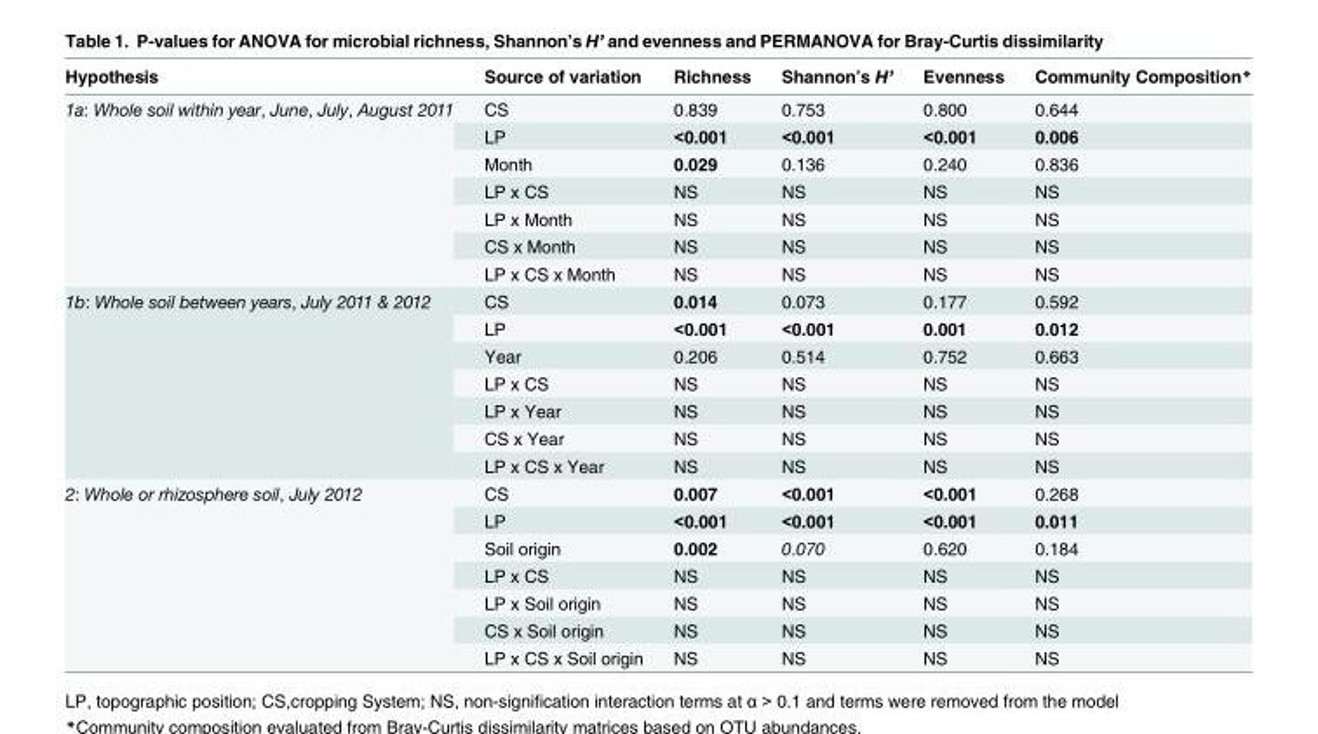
<table><thead><tr><td>Hypothesis</td><td>Source of variation</td><td>Richness</td><td>Shannon’s H’</td><td>Evenness</td><td>Community Composition*</td></tr></thead><tbody><tr><td rowspan="7">1a: Whole soil within year, June, July, August 2011</td><td>CS</td><td>0.839</td><td>0.753</td><td>0.800</td><td>0.644</td></tr><tr><td>LP</td><td>&lt;0.001</td><td>&lt;0.001</td><td>&lt;0.001</td><td>0.006</td></tr><tr><td>Month</td><td>0.029</td><td>0.136</td><td>0.240</td><td>0.836</td></tr><tr><td>LP x CS</td><td>NS</td><td>NS</td><td>NS</td><td>NS</td></tr><tr><td>LP x Month</td><td>NS</td><td>NS</td><td>NS</td><td>NS</td></tr><tr><td>CS x Month</td><td>NS</td><td>NS</td><td>NS</td><td>NS</td></tr><tr><td>LP x CS x Month</td><td>NS</td><td>NS</td><td>NS</td><td>NS</td></tr><tr><td rowspan="7">1b: Whole soil between years, July 2011 &amp; 2012</td><td>CS</td><td>0.014</td><td>0.073</td><td>0.177</td><td>0.592</td></tr><tr><td>LP</td><td>&lt;0.001</td><td>&lt;0.001</td><td>0.001</td><td>0.012</td></tr><tr><td>Year</td><td>0.206</td><td>0.514</td><td>0.752</td><td>0.663</td></tr><tr><td>LP x CS</td><td>NS</td><td>NS</td><td>NS</td><td>NS</td></tr><tr><td>LP x Year</td><td>NS</td><td>NS</td><td>NS</td><td>NS</td></tr><tr><td>CS x Year</td><td>NS</td><td>NS</td><td>NS</td><td>NS</td></tr><tr><td>LP x CS x Year</td><td>NS</td><td>NS</td><td>NS</td><td>NS</td></tr><tr><td rowspan="7">2: Whole or rhizosphere soil, July 2012</td><td>CS</td><td>0.007</td><td>&lt;0.001</td><td>&lt;0.001</td><td>0.268</td></tr><tr><td>LP</td><td>&lt;0.001</td><td>&lt;0.001</td><td>&lt;0.001</td><td>0.011</td></tr><tr><td>Soil origin</td><td>0.002</td><td>0.070</td><td>0.620</td><td>0.184</td></tr><tr><td>LP x CS</td><td>NS</td><td>NS</td><td>NS</td><td>NS</td></tr><tr><td>LP x Soil origin</td><td>NS</td><td>NS</td><td>NS</td><td>NS</td></tr><tr><td>CS x Soil origin</td><td>NS</td><td>NS</td><td>NS</td><td>NS</td></tr><tr><td>LP x CS x Soil origin</td><td>NS</td><td>NS</td><td>NS</td><td>NS</td></tr></tbody></table>